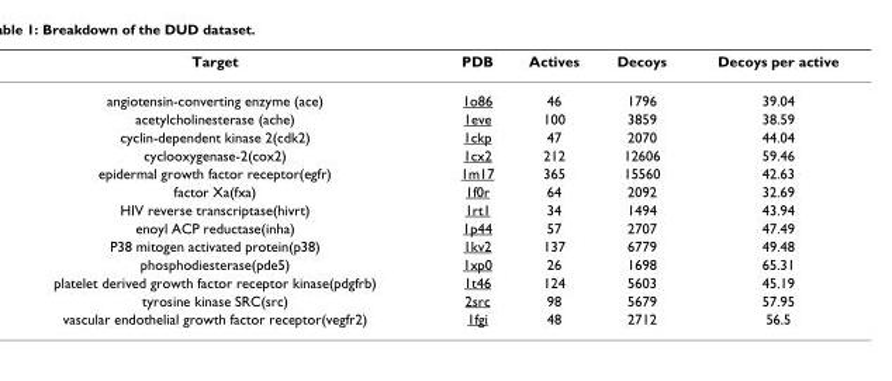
<table><thead><tr><td>Target</td><td>PDB</td><td>Actives</td><td>Decoys</td><td>Decoys per active</td></tr></thead><tbody><tr><td>angiotensin-converting enzyme (ace)</td><td>1o86</td><td>46</td><td>1796</td><td>39.04</td></tr><tr><td>acetylcholinesterase (ache)</td><td>1eve</td><td>100</td><td>3859</td><td>38.59</td></tr><tr><td>cyclin-dependent kinase 2(cdk2)</td><td>1ckp</td><td>47</td><td>2070</td><td>44.04</td></tr><tr><td>cyclooxygenase-2(cox2)</td><td>1cx2</td><td>212</td><td>12606</td><td>59.46</td></tr><tr><td>epidermal growth factor receptor(egfr)</td><td>1m17</td><td>365</td><td>15560</td><td>42.63</td></tr><tr><td>factor Xa(fxa)</td><td>1f0r</td><td>64</td><td>2092</td><td>32.69</td></tr><tr><td>HIV reverse transcriptase(hivrt)</td><td>1rt1</td><td>34</td><td>1494</td><td>43.94</td></tr><tr><td>enoyl ACP reductase(inha)</td><td>1p44</td><td>57</td><td>2707</td><td>47.49</td></tr><tr><td>P38 mitogen activated protein(p38)</td><td>1kv2</td><td>137</td><td>6779</td><td>49.48</td></tr><tr><td>phosphodiesterase(pde5)</td><td>1xp0</td><td>26</td><td>1698</td><td>65.31</td></tr><tr><td>platelet derived growth factor receptor kinase(pdgfrb)</td><td>1t46</td><td>124</td><td>5603</td><td>45.19</td></tr><tr><td>tyrosine kinase SRC(src)</td><td>2src</td><td>98</td><td>5679</td><td>57.95</td></tr><tr><td>vascular endothelial growth factor receptor(vegfr2)</td><td>1fgi</td><td>48</td><td>2712</td><td>56.5</td></tr></tbody></table>